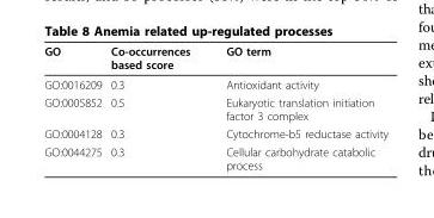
<table><thead><tr><td>GO</td><td>Co-occurrences based score</td><td>GO term</td></tr></thead><tbody><tr><td>GO:0016209</td><td>0.3</td><td>Antioxidant activity</td></tr><tr><td>GO:0005852</td><td>0.5</td><td>Eukaryotic translation initiation factor 3 complex</td></tr><tr><td>GO:0004128</td><td>0.3</td><td>Cytochrome-b5 reductase activity</td></tr><tr><td>GO:0044275</td><td>0.3</td><td>Cellular carbohydrate catabolic process</td></tr></tbody></table>